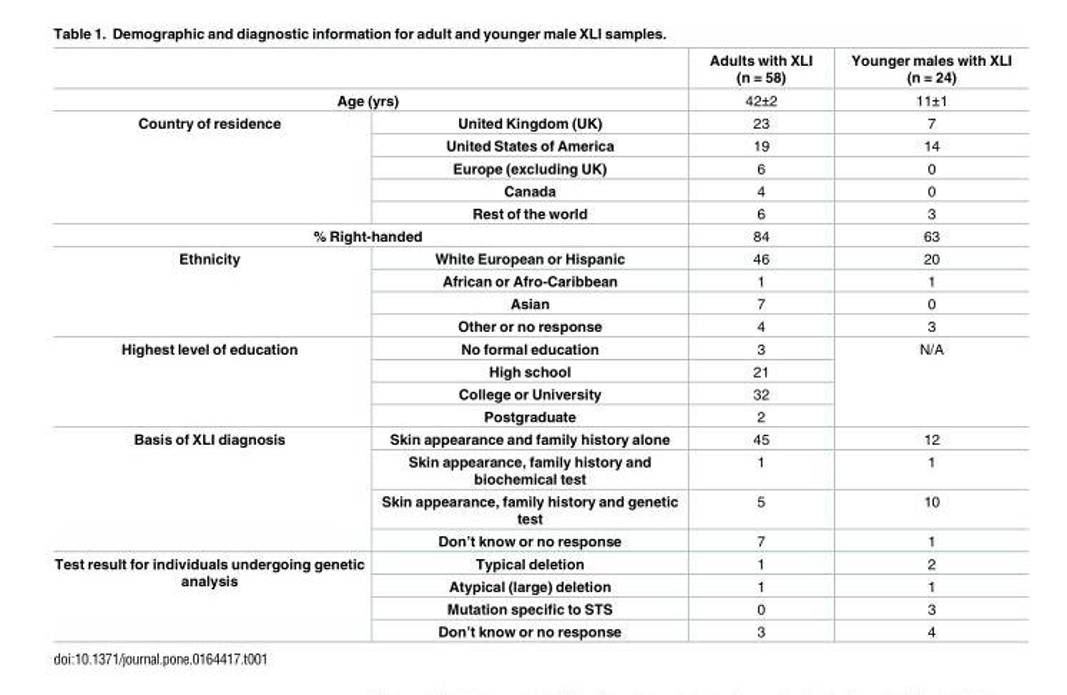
<table><thead><tr><td></td><td></td><td>Adults with XLI (n = 58)</td><td>Younger males with XLI (n = 24)</td></tr></thead><tbody><tr><td colspan="2">Age (yrs)</td><td>42±2</td><td>11±1</td></tr><tr><td rowspan="5">Country of residence</td><td>United Kingdom (UK)</td><td>23</td><td>7</td></tr><tr><td>United States of America</td><td>19</td><td>14</td></tr><tr><td>Europe (excluding UK)</td><td>6</td><td>0</td></tr><tr><td>Canada</td><td>4</td><td>0</td></tr><tr><td>Rest of the world</td><td>6</td><td>3</td></tr><tr><td colspan="2">% Right-handed</td><td>84</td><td>63</td></tr><tr><td rowspan="4">Ethnicity</td><td>White European or Hispanic</td><td>46</td><td>20</td></tr><tr><td>African or Afro-Caribbean</td><td>1</td><td>1</td></tr><tr><td>Asian</td><td>7</td><td>0</td></tr><tr><td>Other or no response</td><td>4</td><td>3</td></tr><tr><td rowspan="4">Highest level of education</td><td>No formal education</td><td>3</td><td rowspan="4">N/A</td></tr><tr><td>High school</td><td>21</td></tr><tr><td>College or University</td><td>32</td></tr><tr><td>Postgraduate</td><td>2</td></tr><tr><td rowspan="4">Basis of XLI diagnosis</td><td>Skin appearance and family history alone</td><td>45</td><td>12</td></tr><tr><td>Skin appearance, family history and biochemical test</td><td>1</td><td>1</td></tr><tr><td>Skin appearance, family history and genetic test</td><td>5</td><td>10</td></tr><tr><td>Don’t know or no response</td><td>7</td><td>1</td></tr><tr><td rowspan="4">Test result for individuals undergoing genetic analysis</td><td>Typical deletion</td><td>1</td><td>2</td></tr><tr><td>Atypical (large) deletion</td><td>1</td><td>1</td></tr><tr><td>Mutation specific to STS</td><td>0</td><td>3</td></tr><tr><td>Don’t know or no response</td><td>3</td><td>4</td></tr></tbody></table>